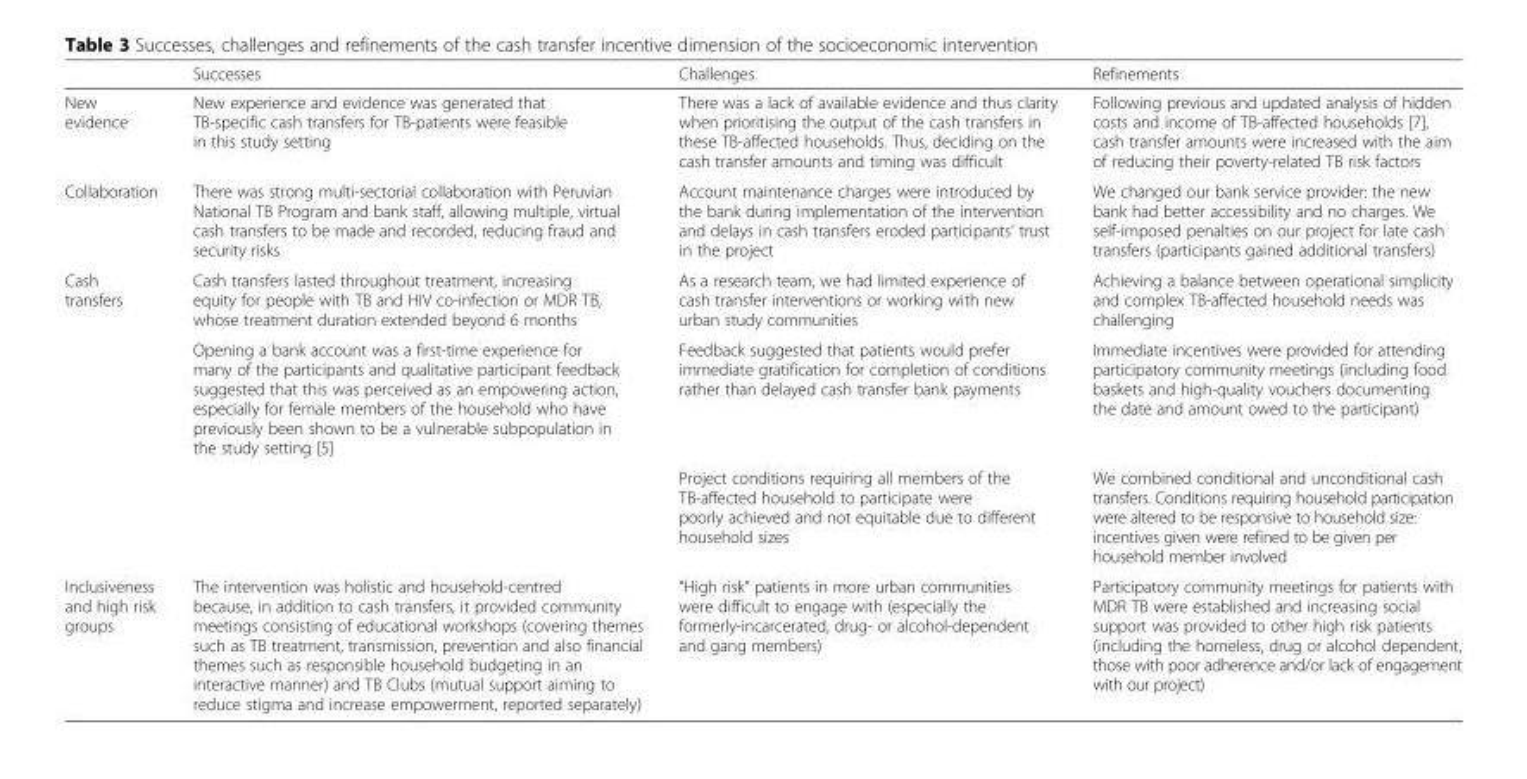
<table><thead><tr><td></td><td>Successes</td><td>Challenges</td><td>Refinements</td></tr></thead><tbody><tr><td>New evidence</td><td>New experience and evidence was generated that TB-specific cash transfers for TB-patients were feasible in this study setting</td><td>There was a lack of available evidence and thus clarity when prioritising the output of the cash transfers in these TB-affected households. Thus, deciding on the cash transfer amounts and timing was difficult</td><td>Following previous and updated analysis of hidden costs and income of TB-affected households [7], cash transfer amounts were increased with the aim of reducing their poverty-related TB risk factors</td></tr><tr><td>Collaboration</td><td>There was strong multi-sectorial collaboration with Peruvian National TB Program and bank staff, allowing multiple, virtual cash transfers to be made and recorded, reducing fraud and security risks</td><td>Account maintenance charges were introduced by the bank during implementation of the intervention and delays in cash transfers eroded participants’ trust in the project</td><td>We changed our bank service provider: the new bank had better accessibility and no charges. We self-imposed penalties on our project for late cash transfers (participants gained additional transfers)</td></tr><tr><td rowspan="3">Cash transfers</td><td>Cash transfers lasted throughout treatment, increasing equity for people with TB and HIV co-infection or MDR TB, whose treatment duration extended beyond 6 months</td><td>As a research team, we had limited experience of cash transfer interventions or working with new urban study communities</td><td>Achieving a balance between operational simplicity and complex TB-affected household needs was challenging</td></tr><tr><td>Opening a bank account was a first-time experience for many of the participants and qualitative participant feedback suggested that this was perceived as an empowering action, especially for female members of the household who have previously been shown to be a vulnerable subpopulation in the study setting [5]</td><td>Feedback suggested that patients would prefer immediate gratification for completion of conditions rather than delayed cash transfer bank payments</td><td>Immediate incentives were provided for attending participatory community meetings (including food baskets and high-quality vouchers documenting the date and amount owed to the participant)</td></tr><tr><td></td><td>Project conditions requiring all members of the TB-affected household to participate were poorly achieved and not equitable due to different household sizes</td><td>We combined conditional and unconditional cash transfers. Conditions requiring household participation were altered to be responsive to household size: incentives given were refined to be given per household member involved</td></tr><tr><td>Inclusiveness and high risk groups</td><td>The intervention was holistic and household-centred because, in addition to cash transfers, it provided community meetings consisting of educational workshops (covering themes such as TB treatment, transmission, prevention and also financial themes such as responsible household budgeting in an interactive manner) and TB Clubs (mutual support aiming to reduce stigma and increase empowerment, reported separately)</td><td>“High risk” patients in more urban communities were difficult to engage with (especially the formerly-incarcerated, drug- or alcohol-dependent and gang members)</td><td>Participatory community meetings for patients with MDR TB were established and increasing social support was provided to other high risk patients (including the homeless, drug or alcohol dependent, those with poor adherence and/or lack of engagement with our project)</td></tr></tbody></table>